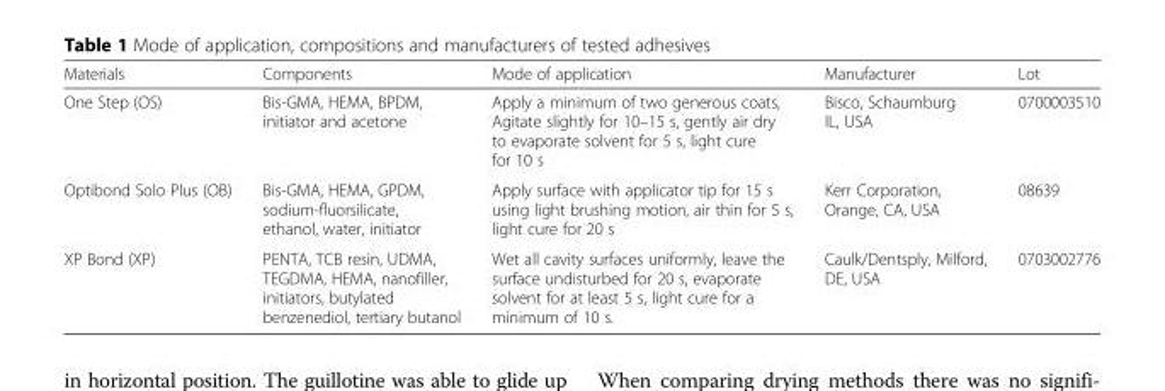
<table><thead><tr><td>Materials</td><td>Components</td><td>Mode of application</td><td>Manufacturer</td><td>Lot</td></tr></thead><tbody><tr><td>One Step (OS)</td><td>Bis-GMA, HEMA, BPDM, initiator and acetone</td><td>Apply a minimum of two generous coats, Agitate slightly for 10–15 s, gently air dry to evaporate solvent for 5 s, light cure for 10 s</td><td>Bisco, Schaumburg IL, USA</td><td>0700003510</td></tr><tr><td>Optibond Solo Plus (OB)</td><td>Bis-GMA, HEMA, GPDM, sodium-fluorsilicate, ethanol, water, initiator</td><td>Apply surface with applicator tip for 15 s using light brushing motion, air thin for 5 s, light cure for 20 s</td><td>Kerr Corporation, Orange, CA, USA</td><td>08639</td></tr><tr><td>XP Bond (XP)</td><td>PENTA, TCB resin, UDMA, TEGDMA, HEMA, nanofiller, initiators, butylated benzenediol, tertiary butanol</td><td>Wet all cavity surfaces uniformly, leave the surface undisturbed for 20 s, evaporate solvent for at least 5 s, light cure for a minimum of 10 s.</td><td>Caulk/Dentsply, Milford, DE, USA</td><td>0703002776</td></tr></tbody></table>